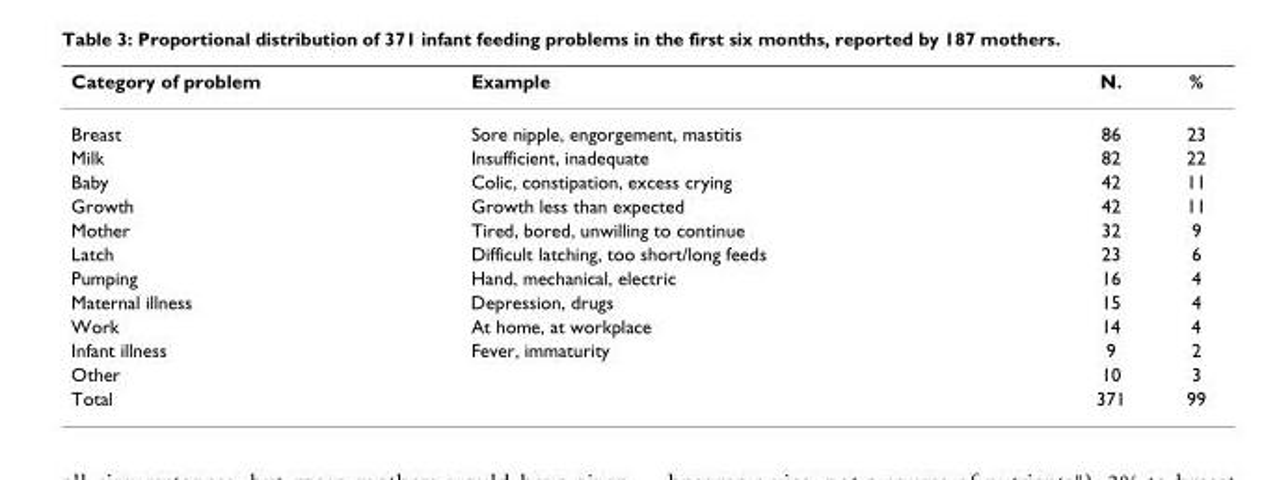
<table><thead><tr><td>Category of problem</td><td>Example</td><td>N.</td><td>%</td></tr></thead><tbody><tr><td>Breast</td><td>Sore nipple, engorgement, mastitis</td><td>86</td><td>23</td></tr><tr><td>Milk</td><td>Insufficient, inadequate</td><td>82</td><td>22</td></tr><tr><td>Baby</td><td>Colic, constipation, excess crying</td><td>42</td><td>11</td></tr><tr><td>Growth</td><td>Growth less than expected</td><td>42</td><td>11</td></tr><tr><td>Mother</td><td>Tired, bored, unwilling to continue</td><td>32</td><td>9</td></tr><tr><td>Latch</td><td>Difficult latching, too short/long feeds</td><td>23</td><td>6</td></tr><tr><td>Pumping</td><td>Hand, mechanical, electric</td><td>16</td><td>4</td></tr><tr><td>Maternal illness</td><td>Depression, drugs</td><td>15</td><td>4</td></tr><tr><td>Work</td><td>At home, at workplace</td><td>14</td><td>4</td></tr><tr><td>Infant illness</td><td>Fever, immaturity</td><td>9</td><td>2</td></tr><tr><td>Other</td><td></td><td>10</td><td>3</td></tr><tr><td>Total</td><td></td><td>371</td><td>99</td></tr></tbody></table>